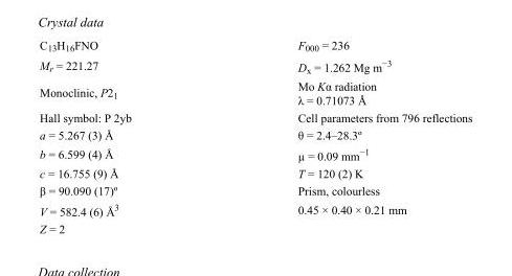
<table><tbody><tr><td>C<sub>13</sub>H<sub>16</sub>FNO</td><td>F000 = 236</td></tr><tr><td>M<sub>r</sub> = 221.27</td><td>D<sub>x</sub> = 1.262 Mg m<sup>−3</sup></td></tr><tr><td>Monoclinic, P2<sub>1</sub></td><td>Mo Kα radiation λ = 0.71073 Å</td></tr><tr><td>Hall symbol: P 2yb</td><td>Cell parameters from 796 reflections</td></tr><tr><td>a = 5.267 (3) Å</td><td>θ = 2.4–28.3º</td></tr><tr><td>b = 6.599 (4) Å</td><td>µ = 0.09 mm<sup>−1</sup></td></tr><tr><td>c = 16.755 (9) Å</td><td>T = 120 (2) K</td></tr><tr><td>β = 90.090 (17)º</td><td>Prism, colourless</td></tr><tr><td>V = 582.4 (6) Å<sup>3</sup></td><td>0.45 × 0.40 × 0.21 mm</td></tr><tr><td>Z = 2</td><td></td></tr></tbody></table>